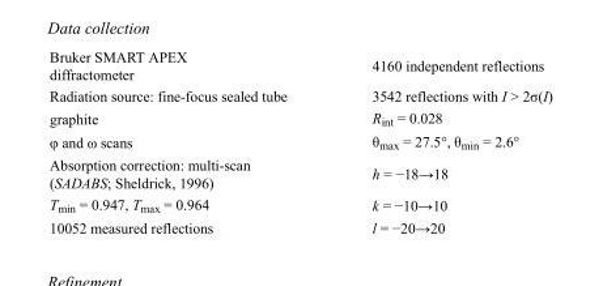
<table><tbody><tr><td>Bruker SMART APEX diffractometer</td><td>4160 independent reflections</td></tr><tr><td>Radiation source: fine-focus sealed tube</td><td>3542 reflections with I &gt; 2σ(I)</td></tr><tr><td>graphite</td><td>R<sub>int</sub> = 0.028</td></tr><tr><td>φ and ω scans</td><td>θ<sub>max</sub> = 27.5°, θ<sub>min</sub> = 2.6°</td></tr><tr><td>Absorption correction: multi-scan (SADABS; Sheldrick, 1996)</td><td>h = −18→18</td></tr><tr><td>T<sub>min</sub> = 0.947, T<sub>max</sub> = 0.964</td><td>k = −10→10</td></tr><tr><td>10052 measured reflections</td><td>l = −20→20</td></tr></tbody></table>